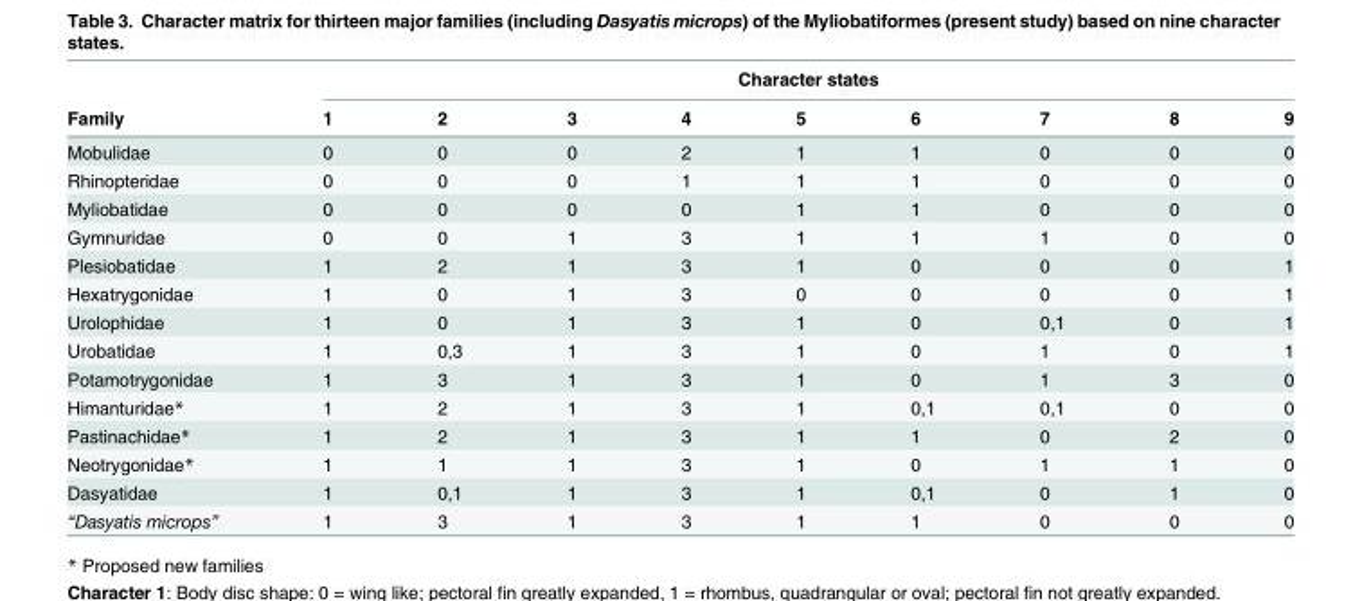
<table><thead><tr><td rowspan="2">Family</td><td colspan="9">Character states</td></tr><tr><td>1</td><td>2</td><td>3</td><td>4</td><td>5</td><td>6</td><td>7</td><td>8</td><td>9</td></tr></thead><tbody><tr><td>Mobulidae</td><td>0</td><td>0</td><td>0</td><td>2</td><td>1</td><td>1</td><td>0</td><td>0</td><td>0</td></tr><tr><td>Rhinopteridae</td><td>0</td><td>0</td><td>0</td><td>1</td><td>1</td><td>1</td><td>0</td><td>0</td><td>0</td></tr><tr><td>Myliobatidae</td><td>0</td><td>0</td><td>0</td><td>0</td><td>1</td><td>1</td><td>0</td><td>0</td><td>0</td></tr><tr><td>Gymnuridae</td><td>0</td><td>0</td><td>1</td><td>3</td><td>1</td><td>1</td><td>1</td><td>0</td><td>0</td></tr><tr><td>Plesiobatidae</td><td>1</td><td>2</td><td>1</td><td>3</td><td>1</td><td>0</td><td>0</td><td>0</td><td>1</td></tr><tr><td>Hexatrygonidae</td><td>1</td><td>0</td><td>1</td><td>3</td><td>0</td><td>0</td><td>0</td><td>0</td><td>1</td></tr><tr><td>Urolophidae</td><td>1</td><td>0</td><td>1</td><td>3</td><td>1</td><td>0</td><td>0,1</td><td>0</td><td>1</td></tr><tr><td>Urobatidae</td><td>1</td><td>0,3</td><td>1</td><td>3</td><td>1</td><td>0</td><td>1</td><td>0</td><td>1</td></tr><tr><td>Potamotrygonidae</td><td>1</td><td>3</td><td>1</td><td>3</td><td>1</td><td>0</td><td>1</td><td>3</td><td>0</td></tr><tr><td>Himanturidae*</td><td>1</td><td>2</td><td>1</td><td>3</td><td>1</td><td>0,1</td><td>0,1</td><td>0</td><td>0</td></tr><tr><td>Pastinachidae*</td><td>1</td><td>2</td><td>1</td><td>3</td><td>1</td><td>1</td><td>0</td><td>2</td><td>0</td></tr><tr><td>Neotrygonidae*</td><td>1</td><td>1</td><td>1</td><td>3</td><td>1</td><td>0</td><td>1</td><td>1</td><td>0</td></tr><tr><td>Dasyatidae</td><td>1</td><td>0,1</td><td>1</td><td>3</td><td>1</td><td>0,1</td><td>0</td><td>1</td><td>0</td></tr><tr><td>“Dasyatis microps”</td><td>1</td><td>3</td><td>1</td><td>3</td><td>1</td><td>1</td><td>0</td><td>0</td><td>0</td></tr></tbody></table>